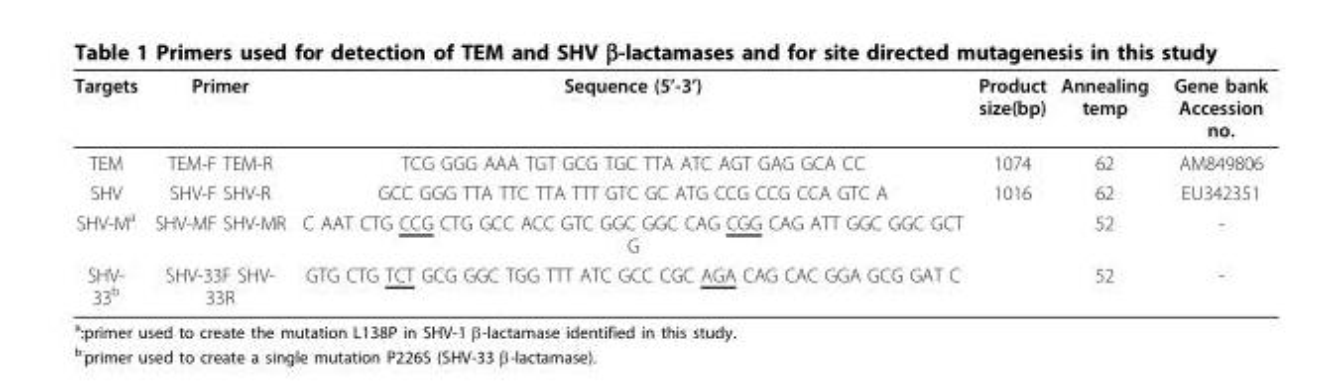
<table><thead><tr><td>Targets</td><td>Primer</td><td>Sequence (5’-3’)</td><td>Product size(bp)</td><td>Annealing temp</td><td>Gene bank Accession no.</td></tr></thead><tbody><tr><td>TEM</td><td>TEM-F TEM-R</td><td>TCG GGG AAA TGT GCG TGC TTA ATC AGT GAG GCA CC</td><td>1074</td><td>62</td><td>AM849806</td></tr><tr><td>SHV</td><td>SHV-F SHV-R</td><td>GCC GGG TTA TTC TTA TTT GTC GC ATG CCG CCG CCA GTC A</td><td>1016</td><td>62</td><td>EU342351</td></tr><tr><td>SHV-M<sup>a</sup></td><td>SHV-MF SHV-MR</td><td>C AAT CTG CCG CTG GCC ACC GTC GGC GGC CAG CGG CAG ATT GGC GGC GCT G</td><td></td><td>52</td><td>-</td></tr><tr><td>SHV- 33<sup>b</sup></td><td>SHV-33F SHV- 33R</td><td>GTG CTG TCT GCG GGC TGG TTT ATC GCC CGC AGA CAG CAC GGA GCG GAT C</td><td></td><td>52</td><td>-</td></tr></tbody></table>